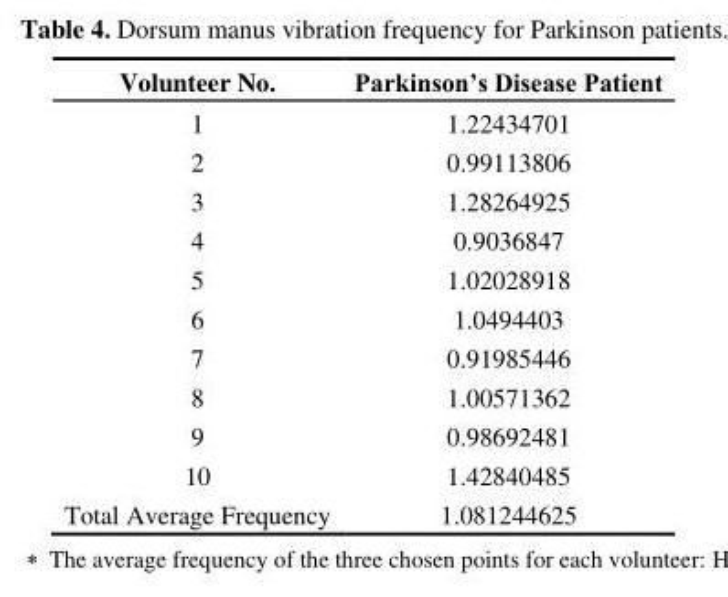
<table><thead><tr><td>Volunteer No.</td><td>Parkinson’s Disease Patient</td></tr></thead><tbody><tr><td>1</td><td>1.22434701</td></tr><tr><td>2</td><td>0.99113806</td></tr><tr><td>3</td><td>1.28264925</td></tr><tr><td>4</td><td>0.9036847</td></tr><tr><td>5</td><td>1.02028918</td></tr><tr><td>6</td><td>1.0494403</td></tr><tr><td>7</td><td>0.91985446</td></tr><tr><td>8</td><td>1.00571362</td></tr><tr><td>9</td><td>0.98692481</td></tr><tr><td>10</td><td>1.42840485</td></tr><tr><td>Total Average Frequency</td><td>1.081244625</td></tr></tbody></table>